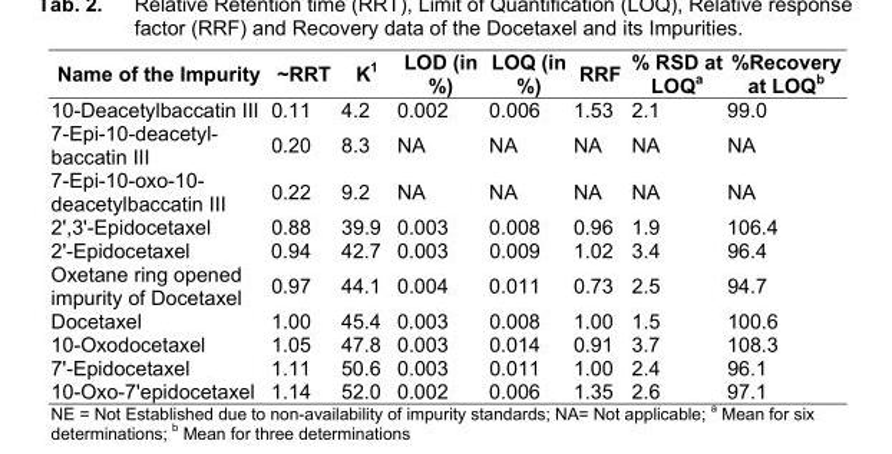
<table><thead><tr><td>Name of the Impurity</td><td>~RRT</td><td>K<sup>1</sup></td><td>LOD (in %)</td><td>LOQ (in %)</td><td>RRF</td><td>% RSD at LOQ<sup>a</sup></td><td>%Recovery at LOQ<sup>b</sup></td></tr></thead><tbody><tr><td>10-Deacetylbaccatin III</td><td>0.11</td><td>4.2</td><td>0.002</td><td>0.006</td><td>1.53</td><td>2.1</td><td>99.0</td></tr><tr><td>7-Epi-10-deacetyl- baccatin III</td><td>0.20</td><td>8.3</td><td>NA</td><td>NA</td><td>NA</td><td>NA</td><td>NA</td></tr><tr><td>7-Epi-10-oxo-10- deacetylbaccatin III</td><td>0.22</td><td>9.2</td><td>NA</td><td>NA</td><td>NA</td><td>NA</td><td>NA</td></tr><tr><td>2&#x27;,3&#x27;-Epidocetaxel</td><td>0.88</td><td>39.9</td><td>0.003</td><td>0.008</td><td>0.96</td><td>1.9</td><td>106.4</td></tr><tr><td>2&#x27;-Epidocetaxel</td><td>0.94</td><td>42.7</td><td>0.003</td><td>0.009</td><td>1.02</td><td>3.4</td><td>96.4</td></tr><tr><td>Oxetane ring opened impurity of Docetaxel</td><td>0.97</td><td>44.1</td><td>0.004</td><td>0.011</td><td>0.73</td><td>2.5</td><td>94.7</td></tr><tr><td>Docetaxel</td><td>1.00</td><td>45.4</td><td>0.003</td><td>0.008</td><td>1.00</td><td>1.5</td><td>100.6</td></tr><tr><td>10-Oxodocetaxel</td><td>1.05</td><td>47.8</td><td>0.003</td><td>0.014</td><td>0.91</td><td>3.7</td><td>108.3</td></tr><tr><td>7&#x27;-Epidocetaxel</td><td>1.11</td><td>50.6</td><td>0.003</td><td>0.011</td><td>1.00</td><td>2.4</td><td>96.1</td></tr><tr><td>10-Oxo-7&#x27;epidocetaxel</td><td>1.14</td><td>52.0</td><td>0.002</td><td>0.006</td><td>1.35</td><td>2.6</td><td>97.1</td></tr></tbody></table>